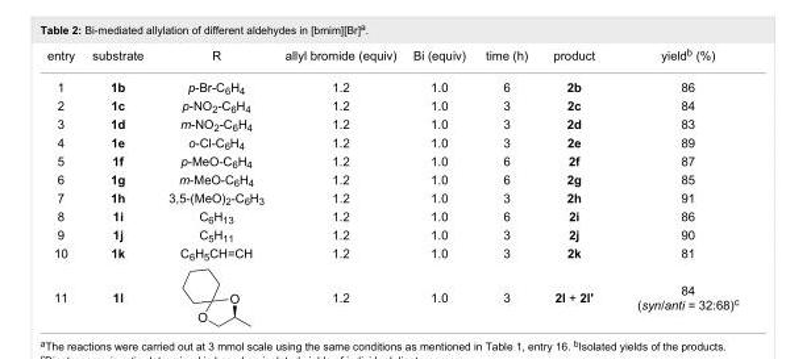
<table><tbody><tr><td>entry</td><td>substrate</td><td>R</td><td>allyl bromide (equiv)</td><td>Bi (equiv)</td><td>time (h)</td><td>product</td><td>yield<sup>b</sup> (%)</td></tr><tr><td>1</td><td>1b</td><td>p-Br-C<sub>6</sub>H<sub>4</sub></td><td>1.2</td><td>1.0</td><td>6</td><td>2b</td><td>86</td></tr><tr><td>2</td><td>1c</td><td>p-NO<sub>2</sub>-C<sub>6</sub>H<sub>4</sub></td><td>1.2</td><td>1.0</td><td>3</td><td>2c</td><td>84</td></tr><tr><td>3</td><td>1d</td><td>m-NO<sub>2</sub>-C<sub>6</sub>H<sub>4</sub></td><td>1.2</td><td>1.0</td><td>3</td><td>2d</td><td>83</td></tr><tr><td>4</td><td>1e</td><td>o-Cl-C<sub>6</sub>H<sub>4</sub></td><td>1.2</td><td>1.0</td><td>3</td><td>2e</td><td>89</td></tr><tr><td>5</td><td>1f</td><td>p-MeO-C<sub>6</sub>H<sub>4</sub></td><td>1.2</td><td>1.0</td><td>6</td><td>2f</td><td>87</td></tr><tr><td>6</td><td>1g</td><td>m-MeO-C<sub>6</sub>H<sub>4</sub></td><td>1.2</td><td>1.0</td><td>6</td><td>2g</td><td>85</td></tr><tr><td>7</td><td>1h</td><td>3,5-(MeO)<sub>2</sub>-C<sub>6</sub>H<sub>3</sub></td><td>1.2</td><td>1.0</td><td>3</td><td>2h</td><td>91</td></tr><tr><td>8</td><td>1i</td><td>C<sub>6</sub>H<sub>13</sub></td><td>1.2</td><td>1.0</td><td>6</td><td>2i</td><td>86</td></tr><tr><td>9</td><td>1j</td><td>C<sub>5</sub>H<sub>11</sub></td><td>1.2</td><td>1.0</td><td>3</td><td>2j</td><td>90</td></tr><tr><td>10</td><td>1k</td><td>C<sub>6</sub>H<sub>5</sub>CH=CH</td><td>1.2</td><td>1.0</td><td>3</td><td>2k</td><td>81</td></tr><tr><td>11</td><td>1l</td><td></td><td>1.2</td><td>1.0</td><td>3</td><td>2l + 2l&#x27;</td><td>84 (syn/anti = 32:68)<sup>c</sup></td></tr></tbody></table>